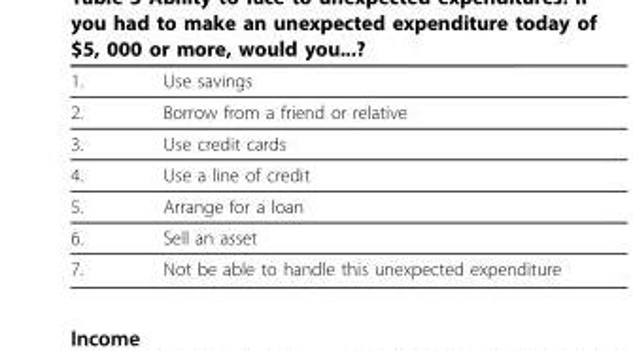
<table><thead><tr><td>1.</td><td>Use savings</td></tr></thead><tbody><tr><td>2.</td><td>Borrow from a friend or relative</td></tr><tr><td>3.</td><td>Use credit cards</td></tr><tr><td>4.</td><td>Use a line of credit</td></tr><tr><td>5.</td><td>Arrange for a loan</td></tr><tr><td>6.</td><td>Sell an asset</td></tr><tr><td>7.</td><td>Not be able to handle this unexpected expenditure</td></tr></tbody></table>